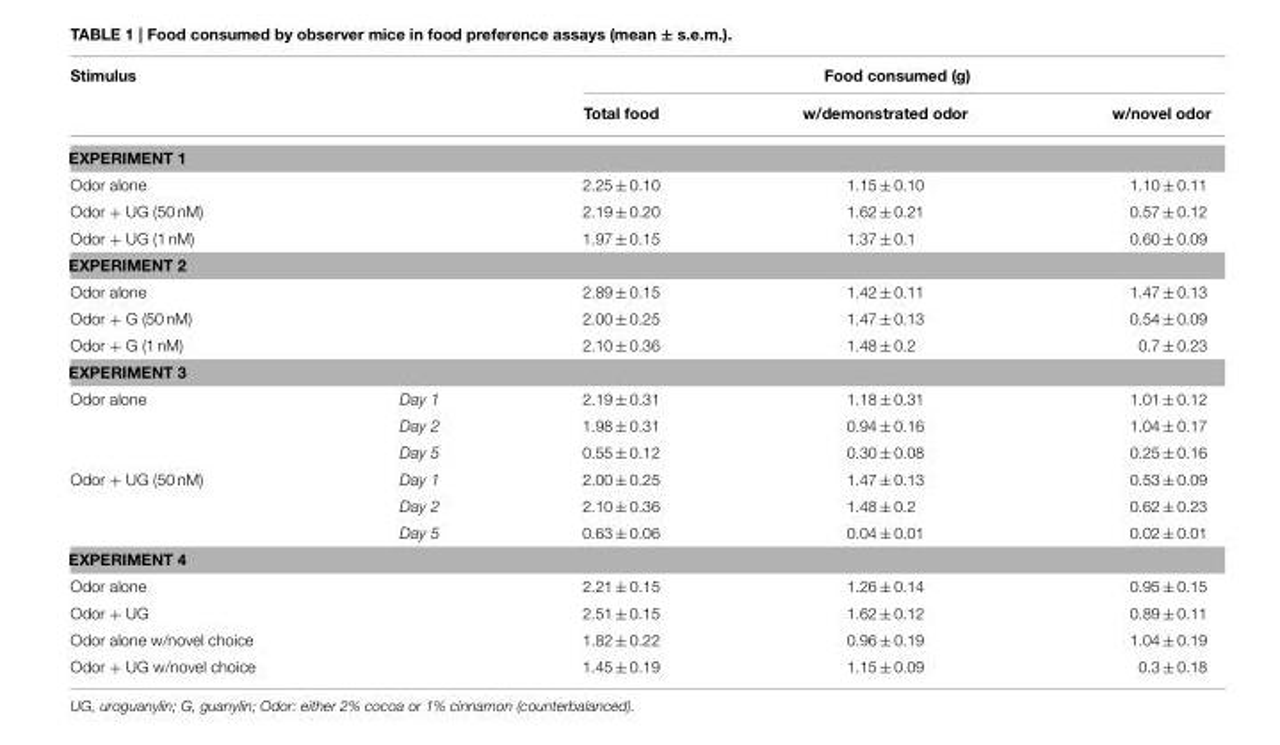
<table><thead><tr><td rowspan="2">Stimulus</td><td rowspan="2"></td><td colspan="3">Food consumed (g)</td></tr><tr><td>Total food</td><td>w/demonstrated odor</td><td>w/novel odor</td></tr></thead><tbody><tr><td colspan="5">EXPERIMENT 1</td></tr><tr><td>Odor alone</td><td></td><td>2.25 ± 0.10</td><td>1.15 ± 0.10</td><td>1.10 ± 0.11</td></tr><tr><td>Odor + UG (50 nM)</td><td></td><td>2.19 ± 0.20</td><td>1.62 ± 0.21</td><td>0.57 ± 0.12</td></tr><tr><td>Odor + UG (1 nM)</td><td></td><td>1.97 ± 0.15</td><td>1.37 ± 0.1</td><td>0.60 ± 0.09</td></tr><tr><td colspan="5">EXPERIMENT 2</td></tr><tr><td>Odor alone</td><td></td><td>2.89 ± 0.15</td><td>1.42 ± 0.11</td><td>1.47 ± 0.13</td></tr><tr><td>Odor + G (50 nM)</td><td></td><td>2.00 ± 0.25</td><td>1.47 ± 0.13</td><td>0.54 ± 0.09</td></tr><tr><td>Odor + G (1 nM)</td><td></td><td>2.10 ± 0.36</td><td>1.48 ± 0.2</td><td>0.7 ± 0.23</td></tr><tr><td colspan="5">EXPERIMENT 3</td></tr><tr><td rowspan="3">Odor alone</td><td>Day 1</td><td>2.19 ± 0.31</td><td>1.18 ± 0.31</td><td>1.01 ± 0.12</td></tr><tr><td>Day 2</td><td>1.98 ± 0.31</td><td>0.94 ± 0.16</td><td>1.04 ± 0.17</td></tr><tr><td>Day 5</td><td>0.55 ± 0.12</td><td>0.30 ± 0.08</td><td>0.25 ± 0.16</td></tr><tr><td rowspan="3">Odor + UG (50 nM)</td><td>Day 1</td><td>2.00 ± 0.25</td><td>1.47 ± 0.13</td><td>0.53 ± 0.09</td></tr><tr><td>Day 2</td><td>2.10 ± 0.36</td><td>1.48 ± 0.2</td><td>0.62 ± 0.23</td></tr><tr><td>Day 5</td><td>0.63 ± 0.06</td><td>0.04 ± 0.01</td><td>0.02 ± 0.01</td></tr><tr><td colspan="5">EXPERIMENT 4</td></tr><tr><td>Odor alone</td><td></td><td>2.21 ± 0.15</td><td>1.26 ± 0.14</td><td>0.95 ± 0.15</td></tr><tr><td>Odor + UG</td><td></td><td>2.51 ± 0.15</td><td>1.62 ± 0.12</td><td>0.89 ± 0.11</td></tr><tr><td>Odor alone w/novel choice</td><td></td><td>1.82 ± 0.22</td><td>0.96 ± 0.19</td><td>1.04 ± 0.19</td></tr><tr><td>Odor + UG w/novel choice</td><td></td><td>1.45 ± 0.19</td><td>1.15 ± 0.09</td><td>0.3 ± 0.18</td></tr></tbody></table>